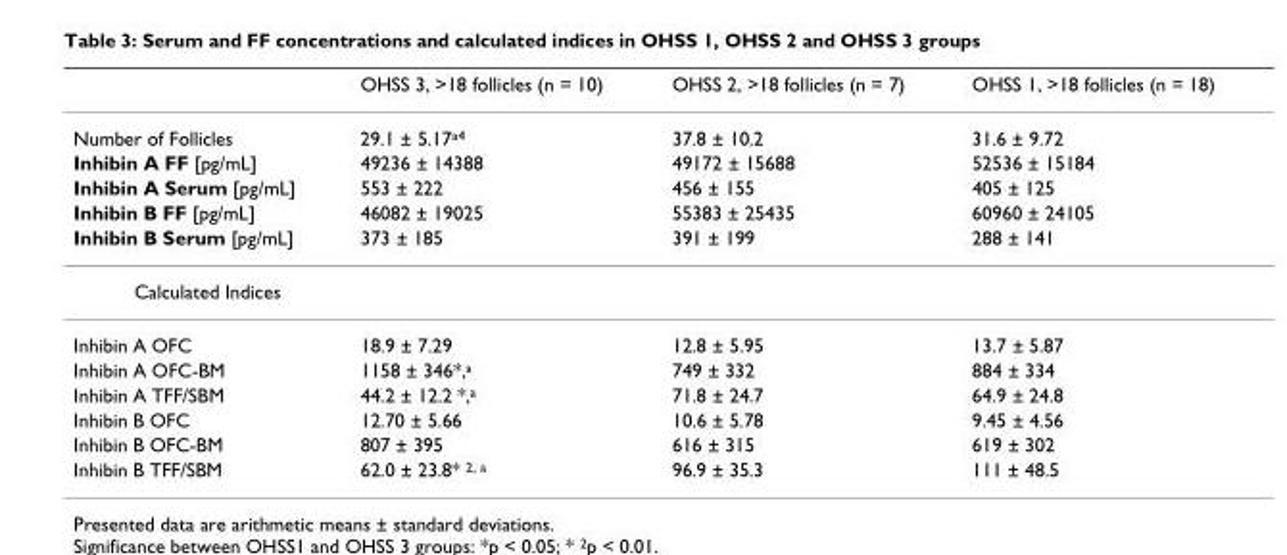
<table><thead><tr><td></td><td>OHSS 3, &gt;18 follicles (n = 10)</td><td>OHSS 2, &gt;18 follicles (n = 7)</td><td>OHSS 1, &gt;18 follicles (n = 18)</td></tr></thead><tbody><tr><td>Number of Follicles</td><td>29.1 ± 5.17<sup>a4</sup></td><td>37.8 ± 10.2</td><td>31.6 ± 9.72</td></tr><tr><td>Inhibin A FF [pg/mL]</td><td>49236 ± 14388</td><td>49172 ± 15688</td><td>52536 ± 15184</td></tr><tr><td>Inhibin A Serum [pg/mL]</td><td>553 ± 222</td><td>456 ± 155</td><td>405 ± 125</td></tr><tr><td>Inhibin B FF [pg/mL]</td><td>46082 ± 19025</td><td>55383 ± 25435</td><td>60960 ± 24105</td></tr><tr><td>Inhibin B Serum [pg/mL]</td><td>373 ± 185</td><td>391 ± 199</td><td>288 ± 141</td></tr><tr><td colspan="4">Calculated Indices</td></tr><tr><td>Inhibin A OFC</td><td>18.9 ± 7.29</td><td>12.8 ± 5.95</td><td>13.7 ± 5.87</td></tr><tr><td>Inhibin A OFC-BM</td><td>1158 ± 346*,<sup>a</sup></td><td>749 ± 332</td><td>884 ± 334</td></tr><tr><td>Inhibin A TFF/SBM</td><td>44.2 ± 12.2 *,<sup>a</sup></td><td>71.8 ± 24.7</td><td>64.9 ± 24.8</td></tr><tr><td>Inhibin B OFC</td><td>12.70 ± 5.66</td><td>10.6 ± 5.78</td><td>9.45 ± 4.56</td></tr><tr><td>Inhibin B OFC-BM</td><td>807 ± 395</td><td>616 ± 315</td><td>619 ± 302</td></tr><tr><td>Inhibin B TFF/SBM</td><td>62.0 ± 23.8* <sup>2, a</sup></td><td>96.9 ± 35.3</td><td>111 ± 48.5</td></tr></tbody></table>